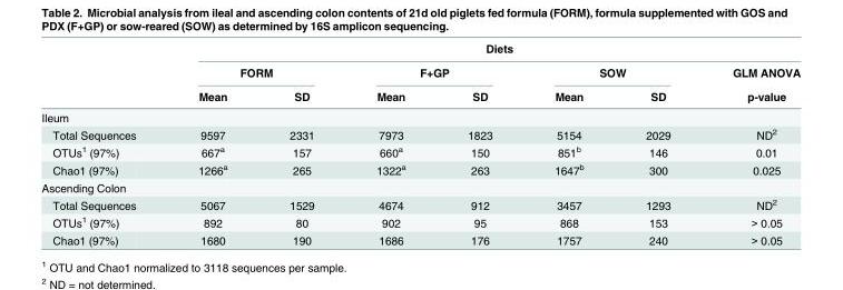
<table><thead><tr><td rowspan="3"></td><td colspan="7">Diets</td></tr><tr><td colspan="2">FORM</td><td colspan="2">F+GP</td><td colspan="2">SOW</td><td rowspan="2">GLM ANOVA p-value</td></tr><tr><td>Mean</td><td>SD</td><td>Mean</td><td>SD</td><td>Mean</td><td>SD</td></tr></thead><tbody><tr><td colspan="8">Ileum</td></tr><tr><td>Total Sequences</td><td>9597</td><td>2331</td><td>7973</td><td>1823</td><td>5154</td><td>2029</td><td>ND<sup>2</sup></td></tr><tr><td>OTUs<sup>1</sup> (97%)</td><td>667<sup>a</sup></td><td>157</td><td>660<sup>a</sup></td><td>150</td><td>851<sup>b</sup></td><td>146</td><td>0.01</td></tr><tr><td>Chao1 (97%)</td><td>1266<sup>a</sup></td><td>265</td><td>1322<sup>a</sup></td><td>263</td><td>1647<sup>b</sup></td><td>300</td><td>0.025</td></tr><tr><td colspan="8">Ascending Colon</td></tr><tr><td>Total Sequences</td><td>5067</td><td>1529</td><td>4674</td><td>912</td><td>3457</td><td>1293</td><td>ND<sup>2</sup></td></tr><tr><td>OTUs<sup>1</sup> (97%)</td><td>892</td><td>80</td><td>902</td><td>95</td><td>868</td><td>153</td><td>&gt; 0.05</td></tr><tr><td>Chao1 (97%)</td><td>1680</td><td>190</td><td>1686</td><td>176</td><td>1757</td><td>240</td><td>&gt; 0.05</td></tr></tbody></table>